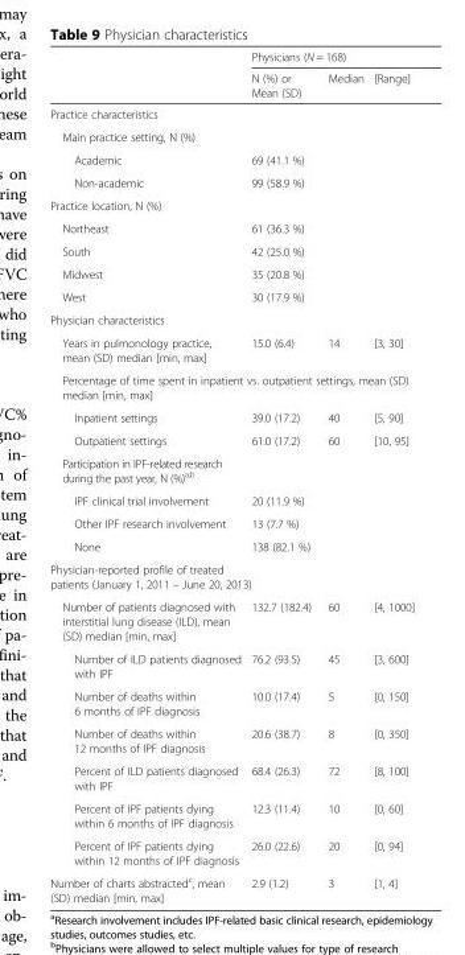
<table><thead><tr><td rowspan="2"></td><td colspan="3">Physicians (N = 168)</td></tr><tr><td>N (%) or Mean (SD)</td><td>Median</td><td>[Range]</td></tr></thead><tbody><tr><td colspan="4">Practice characteristics</td></tr><tr><td colspan="4">Main practice setting, N (%)</td></tr><tr><td>Academic</td><td>69 (41.1 %)</td><td></td><td></td></tr><tr><td>Non-academic</td><td>99 (58.9 %)</td><td></td><td></td></tr><tr><td colspan="4">Practice location, N (%)</td></tr><tr><td>Northeast</td><td>61 (36.3 %)</td><td></td><td></td></tr><tr><td>South</td><td>42 (25.0 %)</td><td></td><td></td></tr><tr><td>Midwest</td><td>35 (20.8 %)</td><td></td><td></td></tr><tr><td>West</td><td>30 (17.9 %)</td><td></td><td></td></tr><tr><td colspan="4">Physician characteristics</td></tr><tr><td>Years in pulmonology practice, mean (SD) median [min, max]</td><td>15.0 (6.4)</td><td>14</td><td>[3, 30]</td></tr><tr><td colspan="4">Percentage of time spent in inpatient vs. outpatient settings, mean (SD) median [min, max]</td></tr><tr><td>Inpatient settings</td><td>39.0 (17.2)</td><td>40</td><td>[5, 90]</td></tr><tr><td>Outpatient settings</td><td>61.0 (17.2)</td><td>60</td><td>[10, 95]</td></tr><tr><td colspan="4">Participation in IPF-related research during the past year, N (%)<sup>a,b</sup></td></tr><tr><td>IPF clinical trial involvement</td><td>20 (11.9 %)</td><td></td><td></td></tr><tr><td>Other IPF research involvement</td><td>13 (7.7 %)</td><td></td><td></td></tr><tr><td>None</td><td>138 (82.1 %)</td><td></td><td></td></tr><tr><td colspan="4">Physician-reported profile of treated patients (January 1, 2011 – June 20, 2013)</td></tr><tr><td>Number of patients diagnosed with interstitial lung disease (ILD), mean (SD) median [min, max]</td><td>132.7 (182.4)</td><td>60</td><td>[4, 1000]</td></tr><tr><td>Number of ILD patients diagnosed with IPF</td><td>76.2 (93.5)</td><td>45</td><td>[3, 600]</td></tr><tr><td>Number of deaths within 6 months of IPF diagnosis</td><td>10.0 (17.4)</td><td>5</td><td>[0, 150]</td></tr><tr><td>Number of deaths within 12 months of IPF diagnosis</td><td>20.6 (38.7)</td><td>8</td><td>[0, 350]</td></tr><tr><td>Percent of ILD patients diagnosed with IPF</td><td>68.4 (26.3)</td><td>72</td><td>[8, 100]</td></tr><tr><td>Percent of IPF patients dying within 6 months of IPF diagnosis</td><td>12.3 (11.4)</td><td>10</td><td>[0, 60]</td></tr><tr><td>Percent of IPF patients dying within 12 months of IPF diagnosis</td><td>26.0 (22.6)</td><td>20</td><td>[0, 94]</td></tr><tr><td>Number of charts abstracted<sup>c</sup>, mean (SD) median [min, max]</td><td>2.9 (1.2)</td><td>3</td><td>[1, 4]</td></tr></tbody></table>